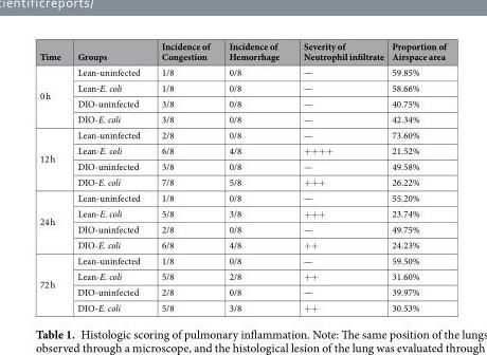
<table><thead><tr><td>Time</td><td>Groups</td><td>Incidence of Congestion</td><td>Incidence of Hemorrhage</td><td>Severity of Neutrophil infiltrate</td><td>Proportion of Airspace area</td></tr></thead><tbody><tr><td rowspan="4">0 h</td><td>Lean-uninfected</td><td>1/8</td><td>0/8</td><td>—</td><td>59.85%</td></tr><tr><td>Lean-E. coli</td><td>1/8</td><td>0/8</td><td>—</td><td>58.66%</td></tr><tr><td>DIO-uninfected</td><td>3/8</td><td>0/8</td><td>—</td><td>40.75%</td></tr><tr><td>DIO-E. coli</td><td>3/8</td><td>0/8</td><td>—</td><td>42.34%</td></tr><tr><td rowspan="4">12 h</td><td>Lean-uninfected</td><td>2/8</td><td>0/8</td><td>—</td><td>73.60%</td></tr><tr><td>Lean-E. coli</td><td>6/8</td><td>4/8</td><td>++++</td><td>21.52%</td></tr><tr><td>DIO-uninfected</td><td>3/8</td><td>0/8</td><td>—</td><td>49.58%</td></tr><tr><td>DIO-E. coli</td><td>7/8</td><td>5/8</td><td>+++</td><td>26.22%</td></tr><tr><td rowspan="4">24 h</td><td>Lean-uninfected</td><td>1/8</td><td>0/8</td><td>—</td><td>55.20%</td></tr><tr><td>Lean-E. coli</td><td>5/8</td><td>3/8</td><td>+++</td><td>23.74%</td></tr><tr><td>DIO-uninfected</td><td>2/8</td><td>0/8</td><td>—</td><td>49.75%</td></tr><tr><td>DIO-E. coli</td><td>6/8</td><td>4/8</td><td>++</td><td>24.23%</td></tr><tr><td rowspan="4">72 h</td><td>Lean-uninfected</td><td>1/8</td><td>0/8</td><td>—</td><td>59.50%</td></tr><tr><td>Lean-E. coli</td><td>5/8</td><td>2/8</td><td>++</td><td>31.60%</td></tr><tr><td>DIO-uninfected</td><td>2/8</td><td>0/8</td><td>—</td><td>39.97%</td></tr><tr><td>DIO-E. coli</td><td>5/8</td><td>3/8</td><td>++</td><td>30.53%</td></tr></tbody></table>